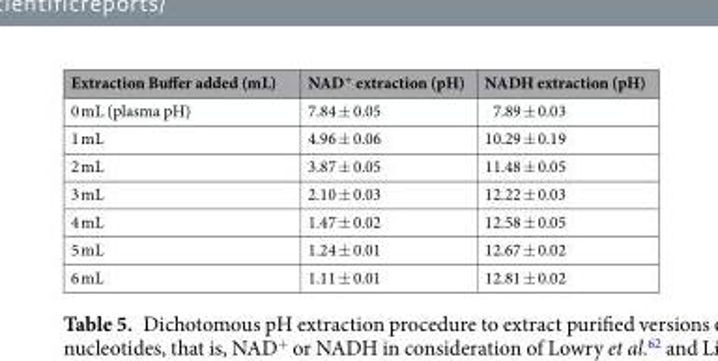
<table><thead><tr><td>Extraction Buffer added (mL)</td><td>NAD<sup>+</sup> extraction (pH)</td><td>NADH extraction (pH)</td></tr></thead><tbody><tr><td>0 mL (plasma pH)</td><td>7.84 ± 0.05</td><td>7.89 ± 0.03</td></tr><tr><td>1 mL</td><td>4.96 ± 0.06</td><td>10.29 ± 0.19</td></tr><tr><td>2 mL</td><td>3.87 ± 0.05</td><td>11.48 ± 0.05</td></tr><tr><td>3 mL</td><td>2.10 ± 0.03</td><td>12.22 ± 0.03</td></tr><tr><td>4 mL</td><td>1.47 ± 0.02</td><td>12.58 ± 0.05</td></tr><tr><td>5 mL</td><td>1.24 ± 0.01</td><td>12.67 ± 0.02</td></tr><tr><td>6 mL</td><td>1.11 ± 0.01</td><td>12.81 ± 0.02</td></tr></tbody></table>